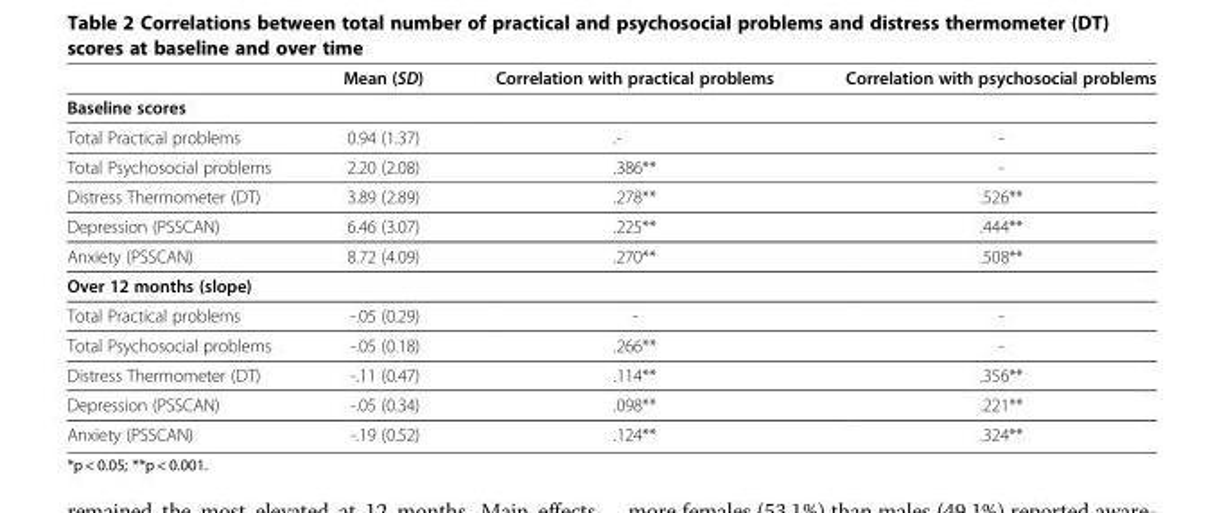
<table><thead><tr><td></td><td>Mean (SD)</td><td>Correlation with practical problems</td><td>Correlation with psychosocial problems</td></tr></thead><tbody><tr><td colspan="4">Baseline scores</td></tr><tr><td>Total Practical problems</td><td>0.94 (1.37)</td><td>.-</td><td>-</td></tr><tr><td>Total Psychosocial problems</td><td>2.20 (2.08)</td><td>.386**</td><td>-</td></tr><tr><td>Distress Thermometer (DT)</td><td>3.89 (2.89)</td><td>.278**</td><td>.526**</td></tr><tr><td>Depression (PSSCAN)</td><td>6.46 (3.07)</td><td>.225**</td><td>.444**</td></tr><tr><td>Anxiety (PSSCAN)</td><td>8.72 (4.09)</td><td>.270**</td><td>.508**</td></tr><tr><td colspan="4">Over 12 months (slope)</td></tr><tr><td>Total Practical problems</td><td>-.05 (0.29)</td><td>-</td><td>-</td></tr><tr><td>Total Psychosocial problems</td><td>-.05 (0.18)</td><td>.266**</td><td>-</td></tr><tr><td>Distress Thermometer (DT)</td><td>-.11 (0.47)</td><td>.114**</td><td>.356**</td></tr><tr><td>Depression (PSSCAN)</td><td>-.05 (0.34)</td><td>.098**</td><td>.221**</td></tr><tr><td>Anxiety (PSSCAN)</td><td>-.19 (0.52)</td><td>.124**</td><td>.324**</td></tr></tbody></table>